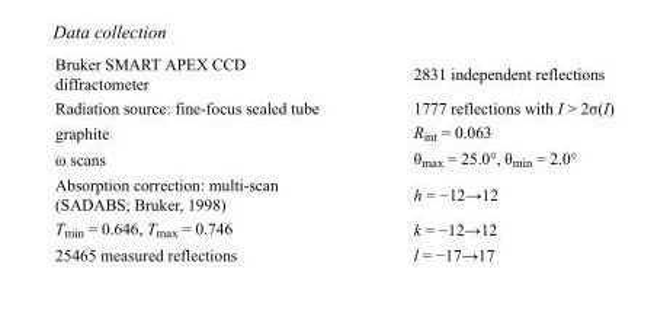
<table><tbody><tr><td>Bruker SMART APEX CCD diffractometer</td><td>2831 independent reflections</td></tr><tr><td>Radiation source: fine-focus sealed tube</td><td>1777 reflections with I &gt; 2σ(I)</td></tr><tr><td>graphite</td><td>R<sub>int</sub> = 0.063</td></tr><tr><td>ω scans</td><td>θ<sub>max</sub> = 25.0°, θ<sub>min</sub> = 2.0°</td></tr><tr><td>Absorption correction: multi-scan (SADABS; Bruker, 1998)</td><td>h = −12→12</td></tr><tr><td>T<sub>min</sub> = 0.646, T<sub>max</sub> = 0.746</td><td>k = −12→12</td></tr><tr><td>25465 measured reflections</td><td>l = −17→17</td></tr></tbody></table>